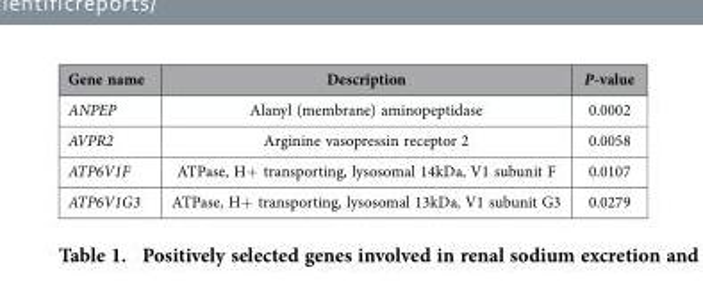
<table><thead><tr><td>Gene name</td><td>Description</td><td>P-value</td></tr></thead><tbody><tr><td>ANPEP</td><td>Alanyl (membrane) aminopeptidase</td><td>0.0002</td></tr><tr><td>AVPR2</td><td>Arginine vasopressin receptor 2</td><td>0.0058</td></tr><tr><td>ATP6V1F</td><td>ATPase, H+ transporting, lysosomal 14kDa, V1 subunit F</td><td>0.0107</td></tr><tr><td>ATP6V1G3</td><td>ATPase, H+ transporting, lysosomal 13kDa, V1 subunit G3</td><td>0.0279</td></tr></tbody></table>